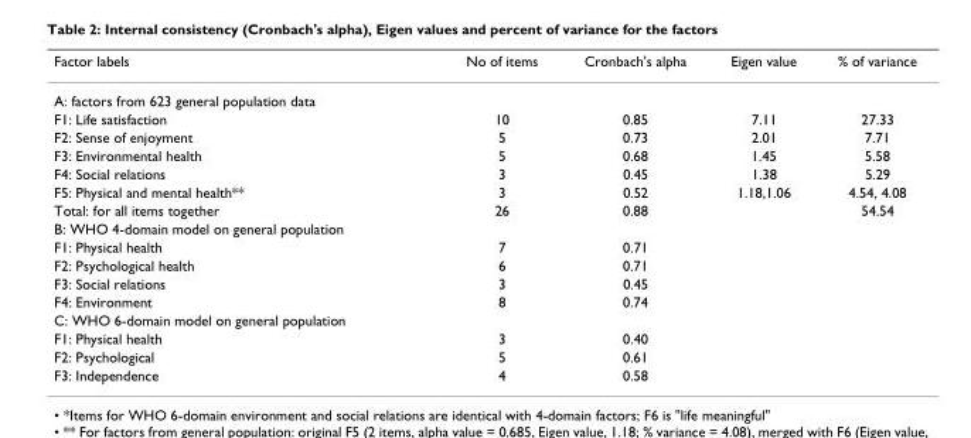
<table><thead><tr><td>Factor labels</td><td>No of items</td><td>Cronbach&#x27;s alpha</td><td>Eigen value</td><td>% of variance</td></tr></thead><tbody><tr><td colspan="5">A: factors from 623 general population data</td></tr><tr><td>F1: Life satisfaction</td><td>10</td><td>0.85</td><td>7.11</td><td>27.33</td></tr><tr><td>F2: Sense of enjoyment</td><td>5</td><td>0.73</td><td>2.01</td><td>7.71</td></tr><tr><td>F3: Environmental health</td><td>5</td><td>0.68</td><td>1.45</td><td>5.58</td></tr><tr><td>F4: Social relations</td><td>3</td><td>0.45</td><td>1.38</td><td>5.29</td></tr><tr><td>F5: Physical and mental health**</td><td>3</td><td>0.52</td><td>1.18,1.06</td><td>4.54, 4.08</td></tr><tr><td>Total: for all items together</td><td>26</td><td>0.88</td><td></td><td>54.54</td></tr><tr><td colspan="5">B: WHO 4-domain model on general population</td></tr><tr><td>F1: Physical health</td><td>7</td><td>0.71</td><td></td><td></td></tr><tr><td>F2: Psychological health</td><td>6</td><td>0.71</td><td></td><td></td></tr><tr><td>F3: Social relations</td><td>3</td><td>0.45</td><td></td><td></td></tr><tr><td>F4: Environment</td><td>8</td><td>0.74</td><td></td><td></td></tr><tr><td colspan="5">C: WHO 6-domain model on general population</td></tr><tr><td>F1: Physical health</td><td>3</td><td>0.40</td><td></td><td></td></tr><tr><td>F2: Psychological</td><td>5</td><td>0.61</td><td></td><td></td></tr><tr><td>F3: Independence</td><td>4</td><td>0.58</td><td></td><td></td></tr></tbody></table>